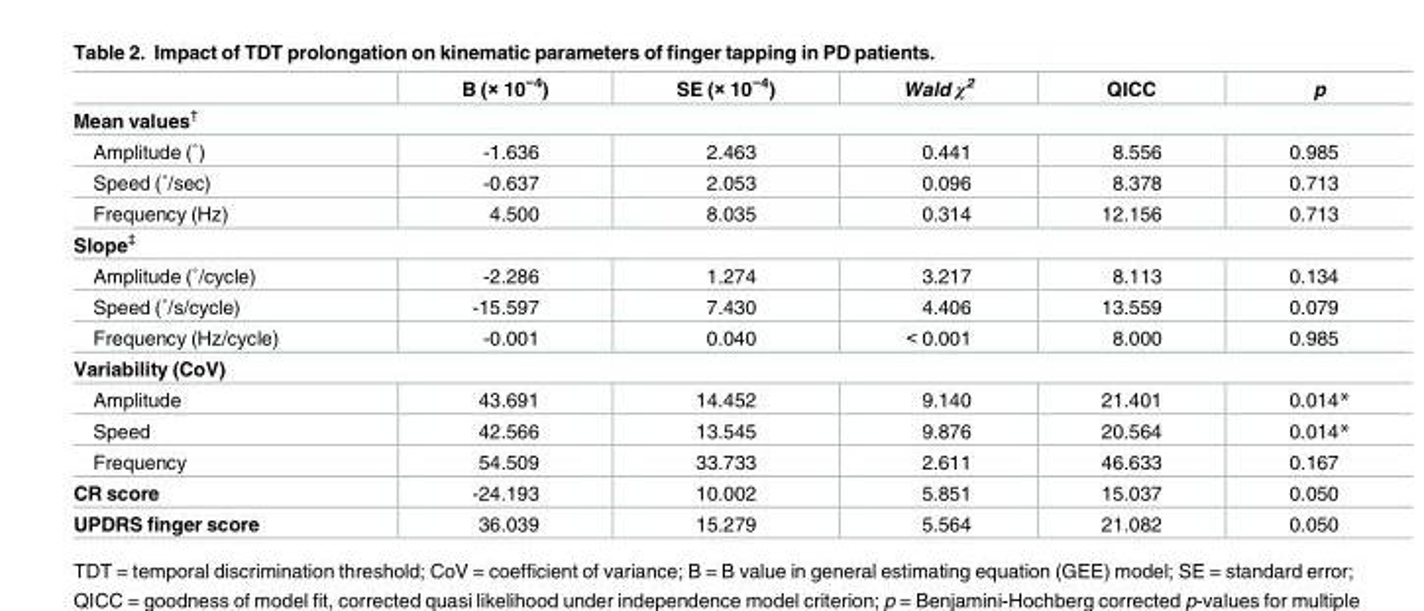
<table><thead><tr><td></td><td>B (× 10<sup>−4</sup>)</td><td>SE (× 10<sup>−4</sup>)</td><td>Wald χ<sup>2</sup></td><td>QICC</td><td>p</td></tr></thead><tbody><tr><td colspan="6">Mean values<sup>†</sup></td></tr><tr><td>Amplitude (˚)</td><td>-1.636</td><td>2.463</td><td>0.441</td><td>8.556</td><td>0.985</td></tr><tr><td>Speed (˚/sec)</td><td>-0.637</td><td>2.053</td><td>0.096</td><td>8.378</td><td>0.713</td></tr><tr><td>Frequency (Hz)</td><td>4.500</td><td>8.035</td><td>0.314</td><td>12.156</td><td>0.713</td></tr><tr><td colspan="6">Slope<sup>‡</sup></td></tr><tr><td>Amplitude (˚/cycle)</td><td>-2.286</td><td>1.274</td><td>3.217</td><td>8.113</td><td>0.134</td></tr><tr><td>Speed (˚/s/cycle)</td><td>-15.597</td><td>7.430</td><td>4.406</td><td>13.559</td><td>0.079</td></tr><tr><td>Frequency (Hz/cycle)</td><td>-0.001</td><td>0.040</td><td>&lt; 0.001</td><td>8.000</td><td>0.985</td></tr><tr><td colspan="6">Variability (CoV)</td></tr><tr><td>Amplitude</td><td>43.691</td><td>14.452</td><td>9.140</td><td>21.401</td><td>0.014*</td></tr><tr><td>Speed</td><td>42.566</td><td>13.545</td><td>9.876</td><td>20.564</td><td>0.014*</td></tr><tr><td>Frequency</td><td>54.509</td><td>33.733</td><td>2.611</td><td>46.633</td><td>0.167</td></tr><tr><td>CR score</td><td>-24.193</td><td>10.002</td><td>5.851</td><td>15.037</td><td>0.050</td></tr><tr><td>UPDRS finger score</td><td>36.039</td><td>15.279</td><td>5.564</td><td>21.082</td><td>0.050</td></tr></tbody></table>